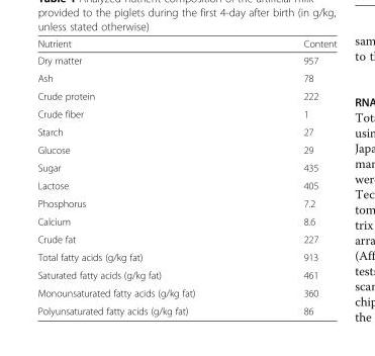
<table><thead><tr><td>Nutrient</td><td>Content</td></tr></thead><tbody><tr><td>Dry matter</td><td>957</td></tr><tr><td>Ash</td><td>78</td></tr><tr><td>Crude protein</td><td>222</td></tr><tr><td>Crude fiber</td><td>1</td></tr><tr><td>Starch</td><td>27</td></tr><tr><td>Glucose</td><td>29</td></tr><tr><td>Sugar</td><td>435</td></tr><tr><td>Lactose</td><td>405</td></tr><tr><td>Phosphorus</td><td>7.2</td></tr><tr><td>Calcium</td><td>8.6</td></tr><tr><td>Crude fat</td><td>227</td></tr><tr><td>Total fatty acids (g/kg fat)</td><td>913</td></tr><tr><td>Saturated fatty acids (g/kg fat)</td><td>461</td></tr><tr><td>Monounsaturated fatty acids (g/kg fat)</td><td>360</td></tr><tr><td>Polyunsaturated fatty acids (g/kg fat)</td><td>86</td></tr></tbody></table>